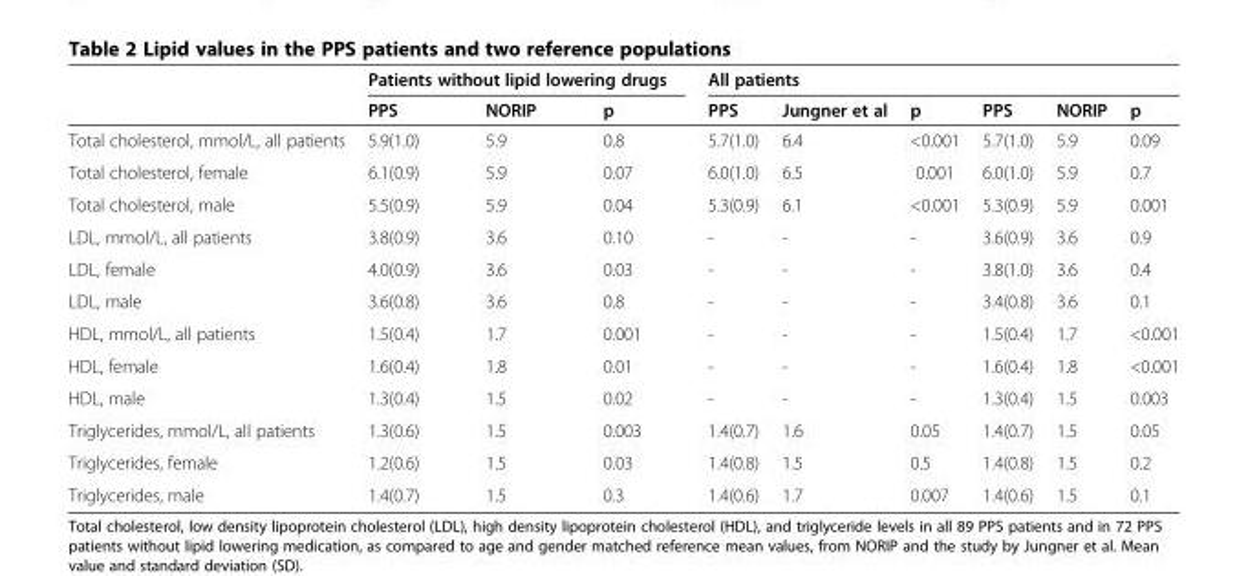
<table><thead><tr><td rowspan="2"></td><td colspan="3">Patients without lipid lowering drugs</td><td colspan="6">All patients</td></tr><tr><td>PPS</td><td>NORIP</td><td>p</td><td>PPS</td><td>Jungner et al</td><td>p</td><td>PPS</td><td>NORIP</td><td>p</td></tr></thead><tbody><tr><td>Total cholesterol, mmol/L, all patients</td><td>5.9(1.0)</td><td>5.9</td><td>0.8</td><td>5.7(1.0)</td><td>6.4</td><td>&lt;0.001</td><td>5.7(1.0)</td><td>5.9</td><td>0.09</td></tr><tr><td>Total cholesterol, female</td><td>6.1(0.9)</td><td>5.9</td><td>0.07</td><td>6.0(1.0)</td><td>6.5</td><td>0.001</td><td>6.0(1.0)</td><td>5.9</td><td>0.7</td></tr><tr><td>Total cholesterol, male</td><td>5.5(0.9)</td><td>5.9</td><td>0.04</td><td>5.3(0.9)</td><td>6.1</td><td>&lt;0.001</td><td>5.3(0.9)</td><td>5.9</td><td>0.001</td></tr><tr><td>LDL, mmol/L, all patients</td><td>3.8(0.9)</td><td>3.6</td><td>0.10</td><td>-</td><td>-</td><td>-</td><td>3.6(0.9)</td><td>3.6</td><td>0.9</td></tr><tr><td>LDL, female</td><td>4.0(0.9)</td><td>3.6</td><td>0.03</td><td>-</td><td>-</td><td>-</td><td>3.8(1.0)</td><td>3.6</td><td>0.4</td></tr><tr><td>LDL, male</td><td>3.6(0.8)</td><td>3.6</td><td>0.8</td><td>-</td><td>-</td><td>-</td><td>3.4(0.8)</td><td>3.6</td><td>0.1</td></tr><tr><td>HDL, mmol/L, all patients</td><td>1.5(0.4)</td><td>1.7</td><td>0.001</td><td>-</td><td>-</td><td>-</td><td>1.5(0.4)</td><td>1.7</td><td>&lt;0.001</td></tr><tr><td>HDL, female</td><td>1.6(0.4)</td><td>1.8</td><td>0.01</td><td>-</td><td>-</td><td>-</td><td>1.6(0.4)</td><td>1.8</td><td>&lt;0.001</td></tr><tr><td>HDL, male</td><td>1.3(0.4)</td><td>1.5</td><td>0.02</td><td>-</td><td>-</td><td>-</td><td>1.3(0.4)</td><td>1.5</td><td>0.003</td></tr><tr><td>Triglycerides, mmol/L, all patients</td><td>1.3(0.6)</td><td>1.5</td><td>0.003</td><td>1.4(0.7)</td><td>1.6</td><td>0.05</td><td>1.4(0.7)</td><td>1.5</td><td>0.05</td></tr><tr><td>Triglycerides, female</td><td>1.2(0.6)</td><td>1.5</td><td>0.03</td><td>1.4(0.8)</td><td>1.5</td><td>0.5</td><td>1.4(0.8)</td><td>1.5</td><td>0.2</td></tr><tr><td>Triglycerides, male</td><td>1.4(0.7)</td><td>1.5</td><td>0.3</td><td>1.4(0.6)</td><td>1.7</td><td>0.007</td><td>1.4(0.6)</td><td>1.5</td><td>0.1</td></tr></tbody></table>